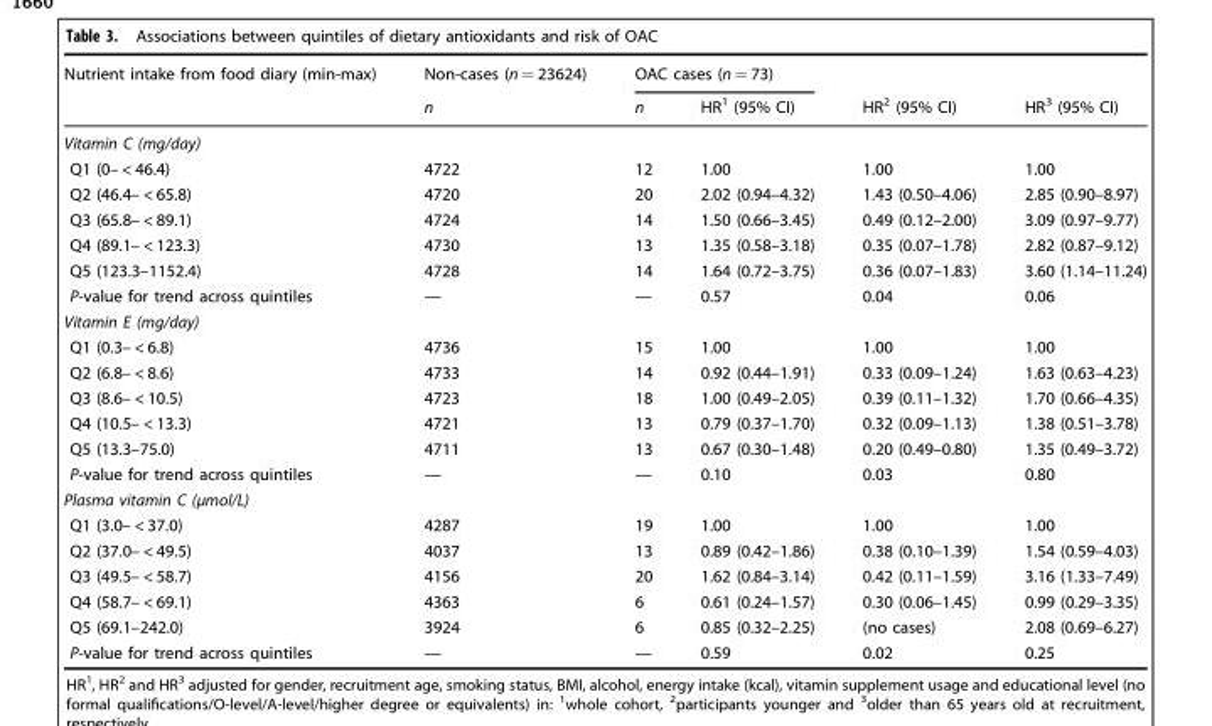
<table><thead><tr><td rowspan="2">Nutrient intake from food diary (min-max)</td><td rowspan="2">Non-cases (n = 23624) n</td><td colspan="2">OAC cases (n = 73)</td><td rowspan="2">HR<sup>2</sup> (95% CI)</td><td rowspan="2">HR<sup>3</sup> (95% CI)</td></tr><tr><td>n</td><td>HR<sup>1</sup> (95% CI)</td></tr></thead><tbody><tr><td colspan="6">Vitamin C (mg/day)</td></tr><tr><td>Q1 (0– &lt; 46.4)</td><td>4722</td><td>12</td><td>1.00</td><td>1.00</td><td>1.00</td></tr><tr><td>Q2 (46.4– &lt; 65.8)</td><td>4720</td><td>20</td><td>2.02 (0.94–4.32)</td><td>1.43 (0.50–4.06)</td><td>2.85 (0.90–8.97)</td></tr><tr><td>Q3 (65.8– &lt; 89.1)</td><td>4724</td><td>14</td><td>1.50 (0.66–3.45)</td><td>0.49 (0.12–2.00)</td><td>3.09 (0.97–9.77)</td></tr><tr><td>Q4 (89.1– &lt; 123.3)</td><td>4730</td><td>13</td><td>1.35 (0.58–3.18)</td><td>0.35 (0.07–1.78)</td><td>2.82 (0.87–9.12)</td></tr><tr><td>Q5 (123.3–1152.4)</td><td>4728</td><td>14</td><td>1.64 (0.72–3.75)</td><td>0.36 (0.07–1.83)</td><td>3.60 (1.14–11.24)</td></tr><tr><td>P-value for trend across quintiles</td><td>—</td><td>—</td><td>0.57</td><td>0.04</td><td>0.06</td></tr><tr><td colspan="6">Vitamin E (mg/day)</td></tr><tr><td>Q1 (0.3– &lt; 6.8)</td><td>4736</td><td>15</td><td>1.00</td><td>1.00</td><td>1.00</td></tr><tr><td>Q2 (6.8– &lt; 8.6)</td><td>4733</td><td>14</td><td>0.92 (0.44–1.91)</td><td>0.33 (0.09–1.24)</td><td>1.63 (0.63–4.23)</td></tr><tr><td>Q3 (8.6– &lt; 10.5)</td><td>4723</td><td>18</td><td>1.00 (0.49–2.05)</td><td>0.39 (0.11–1.32)</td><td>1.70 (0.66–4.35)</td></tr><tr><td>Q4 (10.5– &lt; 13.3)</td><td>4721</td><td>13</td><td>0.79 (0.37–1.70)</td><td>0.32 (0.09–1.13)</td><td>1.38 (0.51–3.78)</td></tr><tr><td>Q5 (13.3–75.0)</td><td>4711</td><td>13</td><td>0.67 (0.30–1.48)</td><td>0.20 (0.49–0.80)</td><td>1.35 (0.49–3.72)</td></tr><tr><td>P-value for trend across quintiles</td><td>—</td><td>—</td><td>0.10</td><td>0.03</td><td>0.80</td></tr><tr><td colspan="6">Plasma vitamin C (μmol/L)</td></tr><tr><td>Q1 (3.0– &lt; 37.0)</td><td>4287</td><td>19</td><td>1.00</td><td>1.00</td><td>1.00</td></tr><tr><td>Q2 (37.0– &lt; 49.5)</td><td>4037</td><td>13</td><td>0.89 (0.42–1.86)</td><td>0.38 (0.10–1.39)</td><td>1.54 (0.59–4.03)</td></tr><tr><td>Q3 (49.5– &lt; 58.7)</td><td>4156</td><td>20</td><td>1.62 (0.84–3.14)</td><td>0.42 (0.11–1.59)</td><td>3.16 (1.33–7.49)</td></tr><tr><td>Q4 (58.7– &lt; 69.1)</td><td>4363</td><td>6</td><td>0.61 (0.24–1.57)</td><td>0.30 (0.06–1.45)</td><td>0.99 (0.29–3.35)</td></tr><tr><td>Q5 (69.1–242.0)</td><td>3924</td><td>6</td><td>0.85 (0.32–2.25)</td><td>(no cases)</td><td>2.08 (0.69–6.27)</td></tr><tr><td>P-value for trend across quintiles</td><td>—</td><td>—</td><td>0.59</td><td>0.02</td><td>0.25</td></tr></tbody></table>